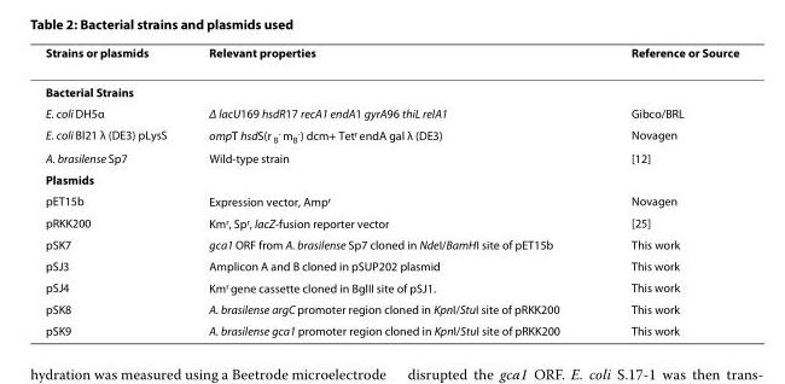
<table><thead><tr><td>Strains or plasmids</td><td>Relevant properties</td><td>Reference or Source</td></tr></thead><tbody><tr><td colspan="3">Bacterial Strains</td></tr><tr><td>E. coli DH5α</td><td>Δ lacU169 hsdR17 recA1 endA1 gyrA96 thiL relA1</td><td>Gibco/BRL</td></tr><tr><td>E. coli Bl21 λ (DE3) pLysS</td><td>ompT hsdS(r <sub>B</sub><sup>-</sup> m<sub>B</sub><sup>-</sup>) dcm+ Tet<sup>r</sup> endA gal λ (DE3)</td><td>Novagen</td></tr><tr><td>A. brasilense Sp7</td><td>Wild-type strain</td><td>[12]</td></tr><tr><td colspan="3">Plasmids</td></tr><tr><td>pET15b</td><td>Expression vector, Amp<sup>r</sup></td><td>Novagen</td></tr><tr><td>pRKK200</td><td>Km<sup>r</sup>, Sp<sup>r</sup>, lacZ-fusion reporter vector</td><td>[25]</td></tr><tr><td>pSK7</td><td>gca1 ORF from A. brasilense Sp7 cloned in NdeI/BamHI site of pET15b</td><td>This work</td></tr><tr><td>pSJ3</td><td>Amplicon A and B cloned in pSUP202 plasmid</td><td>This work</td></tr><tr><td>pSJ4</td><td>Km<sup>r</sup> gene cassette cloned in BglII site of pSJ1.</td><td>This work</td></tr><tr><td>pSK8</td><td>A. brasilense argC promoter region cloned in KpnI/StuI site of pRKK200</td><td>This work</td></tr><tr><td>pSK9</td><td>A. brasilense gca1 promoter region cloned in KpnI/StuI site of pRKK200</td><td>This work</td></tr></tbody></table>